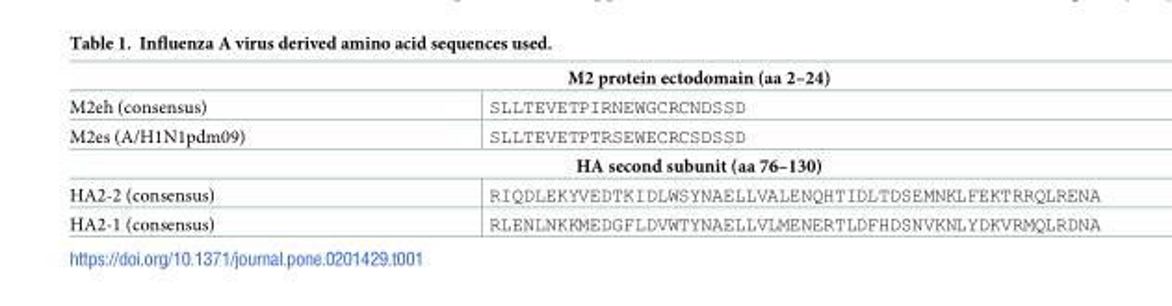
<table><tbody><tr><td colspan="2">M2 protein ectodomain (aa 2–24)</td></tr><tr><td>M2eh (consensus)</td><td>SLLTEVETPIRNEWGCRCNDSSD</td></tr><tr><td>M2es (A/H1N1pdm09)</td><td>SLLTEVETPTRSEWECRCSDSSD</td></tr><tr><td colspan="2">HA second subunit (aa 76–130)</td></tr><tr><td>HA2-2 (consensus)</td><td>RIQDLEKYVEDTKIDLWSYNAELLVALENQHTIDLTDSEMNKLFEKTRRQLRENA</td></tr><tr><td>HA2-1 (consensus)</td><td>RLENLNKKMEDGFLDVWTYNAELLVLMENERTLDFHDSNVKNLYDKVRMQLRDNA</td></tr></tbody></table>